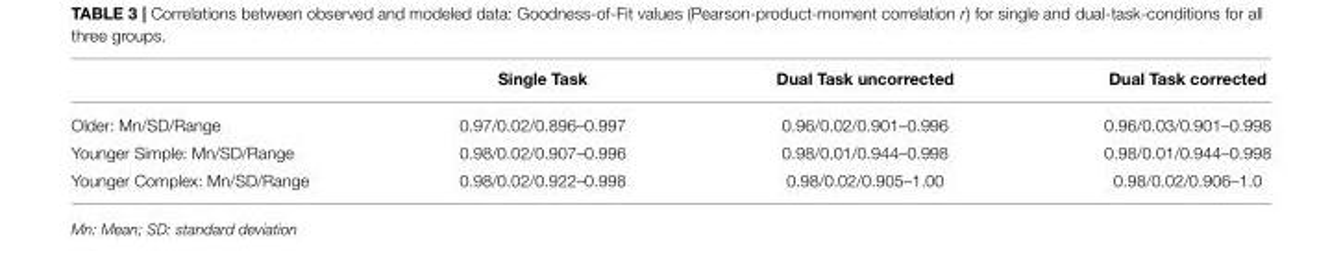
<table><thead><tr><td></td><td>Single Task</td><td>Dual Task uncorrected</td><td>Dual Task corrected</td></tr></thead><tbody><tr><td>Older: Mn/SD/Range</td><td>0.97/0.02/0.896–0.997</td><td>0.96/0.02/0.901–0.996</td><td>0.96/0.03/0.901–0.998</td></tr><tr><td>Younger Simple: Mn/SD/Range</td><td>0.98/0.02/0.907–0.996</td><td>0.98/0.01/0.944–0.998</td><td>0.98/0.01/0.944–0.998</td></tr><tr><td>Younger Complex: Mn/SD/Range</td><td>0.98/0.02/0.922–0.998</td><td>0.98/0.02/0.905–1.00</td><td>0.98/0.02/0.906–1.0</td></tr></tbody></table>